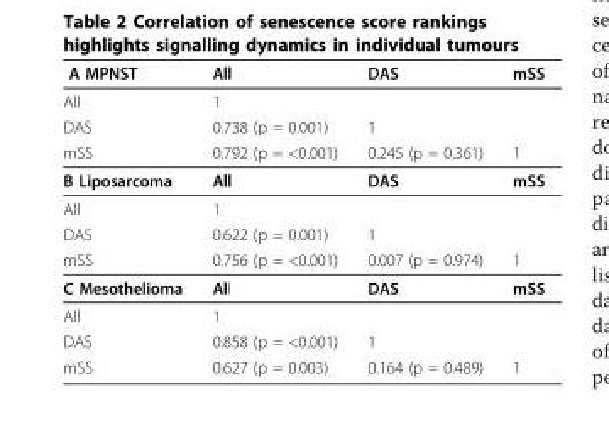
<table><thead><tr><td>A MPNST</td><td>All</td><td>DAS</td><td>mSS</td></tr></thead><tbody><tr><td>All</td><td>1</td><td></td><td></td></tr><tr><td>DAS</td><td>0.738 (p = 0.001)</td><td>1</td><td></td></tr><tr><td>mSS</td><td>0.792 (p = &lt;0.001)</td><td>0.245 (p = 0.361)</td><td>1</td></tr><tr><td>B Liposarcoma</td><td>All</td><td>DAS</td><td>mSS</td></tr><tr><td>All</td><td>1</td><td></td><td></td></tr><tr><td>DAS</td><td>0.622 (p = 0.001)</td><td>1</td><td></td></tr><tr><td>mSS</td><td>0.756 (p = &lt;0.001)</td><td>0.007 (p = 0.974)</td><td>1</td></tr><tr><td>C Mesothelioma</td><td>All</td><td>DAS</td><td>mSS</td></tr><tr><td>All</td><td>1</td><td></td><td></td></tr><tr><td>DAS</td><td>0.858 (p = &lt;0.001)</td><td>1</td><td></td></tr><tr><td>mSS</td><td>0.627 (p = 0.003)</td><td>0.164 (p = 0.489)</td><td>1</td></tr></tbody></table>